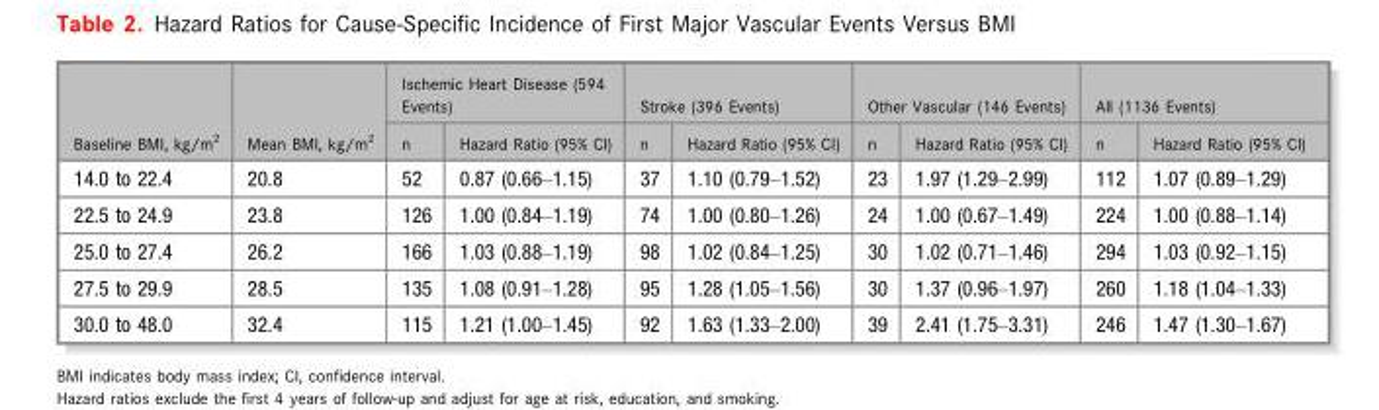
<table><thead><tr><td rowspan="2">Baseline BMI, kg/m<sup>2</sup></td><td rowspan="2">Mean BMI, kg/m<sup>2</sup></td><td colspan="2">Ischemic Heart Disease (594 Events)</td><td colspan="2">Stroke (396 Events)</td><td colspan="2">Other Vascular (146 Events)</td><td colspan="2">All (1136 Events)</td></tr><tr><td>n</td><td>Hazard Ratio (95% CI)</td><td>n</td><td>Hazard Ratio (95% CI)</td><td>n</td><td>Hazard Ratio (95% CI)</td><td>n</td><td>Hazard Ratio (95% CI)</td></tr></thead><tbody><tr><td>14.0 to 22.4</td><td>20.8</td><td>52</td><td>0.87 (0.66–1.15)</td><td>37</td><td>1.10 (0.79–1.52)</td><td>23</td><td>1.97 (1.29–2.99)</td><td>112</td><td>1.07 (0.89–1.29)</td></tr><tr><td>22.5 to 24.9</td><td>23.8</td><td>126</td><td>1.00 (0.84–1.19)</td><td>74</td><td>1.00 (0.80–1.26)</td><td>24</td><td>1.00 (0.67–1.49)</td><td>224</td><td>1.00 (0.88–1.14)</td></tr><tr><td>25.0 to 27.4</td><td>26.2</td><td>166</td><td>1.03 (0.88–1.19)</td><td>98</td><td>1.02 (0.84–1.25)</td><td>30</td><td>1.02 (0.71–1.46)</td><td>294</td><td>1.03 (0.92–1.15)</td></tr><tr><td>27.5 to 29.9</td><td>28.5</td><td>135</td><td>1.08 (0.91–1.28)</td><td>95</td><td>1.28 (1.05–1.56)</td><td>30</td><td>1.37 (0.96–1.97)</td><td>260</td><td>1.18 (1.04–1.33)</td></tr><tr><td>30.0 to 48.0</td><td>32.4</td><td>115</td><td>1.21 (1.00–1.45)</td><td>92</td><td>1.63 (1.33–2.00)</td><td>39</td><td>2.41 (1.75–3.31)</td><td>246</td><td>1.47 (1.30–1.67)</td></tr></tbody></table>